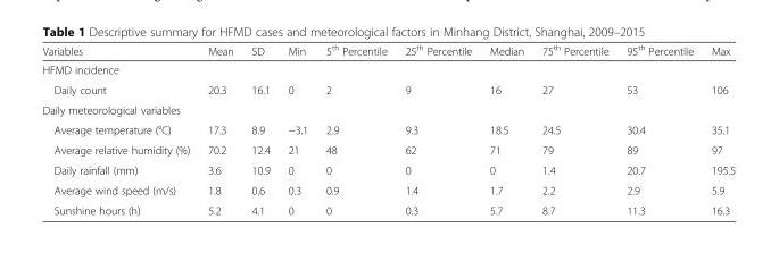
<table><thead><tr><td>Variables</td><td>Mean</td><td>SD</td><td>Min</td><td>5<sup>th</sup> Percentile</td><td>25<sup>th</sup> Percentile</td><td>Median</td><td>75<sup>th</sup> Percentile</td><td>95<sup>th</sup> Percentile</td><td>Max</td></tr></thead><tbody><tr><td colspan="10">HFMD incidence</td></tr><tr><td>Daily count</td><td>20.3</td><td>16.1</td><td>0</td><td>2</td><td>9</td><td>16</td><td>27</td><td>53</td><td>106</td></tr><tr><td colspan="10">Daily meteorological variables</td></tr><tr><td>Average temperature (°C)</td><td>17.3</td><td>8.9</td><td>−3.1</td><td>2.9</td><td>9.3</td><td>18.5</td><td>24.5</td><td>30.4</td><td>35.1</td></tr><tr><td>Average relative humidity (%)</td><td>70.2</td><td>12.4</td><td>21</td><td>48</td><td>62</td><td>71</td><td>79</td><td>89</td><td>97</td></tr><tr><td>Daily rainfall (mm)</td><td>3.6</td><td>10.9</td><td>0</td><td>0</td><td>0</td><td>0</td><td>1.4</td><td>20.7</td><td>195.5</td></tr><tr><td>Average wind speed (m/s)</td><td>1.8</td><td>0.6</td><td>0.3</td><td>0.9</td><td>1.4</td><td>1.7</td><td>2.2</td><td>2.9</td><td>5.9</td></tr><tr><td>Sunshine hours (h)</td><td>5.2</td><td>4.1</td><td>0</td><td>0</td><td>0.3</td><td>5.7</td><td>8.7</td><td>11.3</td><td>16.3</td></tr></tbody></table>